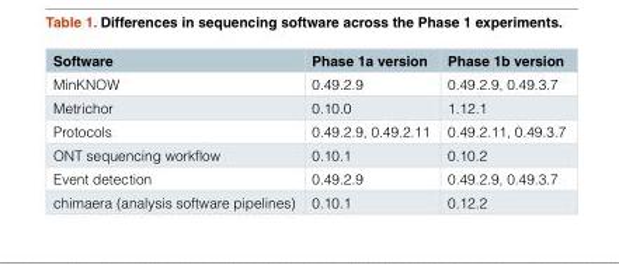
<table><thead><tr><td>Software</td><td>Phase 1a version</td><td>Phase 1b version</td></tr></thead><tbody><tr><td>MinKNOW</td><td>0.49.2.9</td><td>0.49.2.9, 0.49.3.7</td></tr><tr><td>Metrichor</td><td>0.10.0</td><td>1.12.1</td></tr><tr><td>Protocols</td><td>0.49.2.9, 0.49.2.11</td><td>0.49.2.11, 0.49.3.7</td></tr><tr><td>ONT sequencing workflow</td><td>0.10.1</td><td>0.10.2</td></tr><tr><td>Event detection</td><td>0.49.2.9</td><td>0.49.2.9, 0.49.3.7</td></tr><tr><td>chimaera (analysis software pipelines)</td><td>0.10.1</td><td>0.12.2</td></tr></tbody></table>